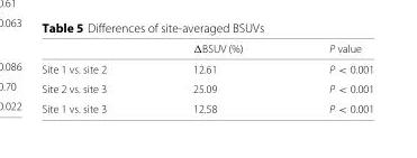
<table><thead><tr><td></td><td>ΔBSUV (%)</td><td>P value</td></tr></thead><tbody><tr><td>Site 1 vs. site 2</td><td>12.61</td><td>P &lt; 0.001</td></tr><tr><td>Site 2 vs. site 3</td><td>25.09</td><td>P &lt; 0.001</td></tr><tr><td>Site 1 vs. site 3</td><td>12.58</td><td>P &lt; 0.001</td></tr></tbody></table>